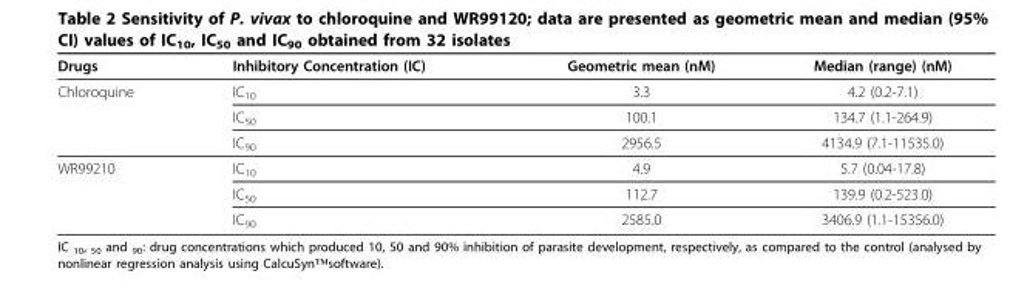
<table><thead><tr><td>Drugs</td><td>Inhibitory Concentration (IC)</td><td>Geometric mean (nM)</td><td>Median (range) (nM)</td></tr></thead><tbody><tr><td rowspan="3">Chloroquine</td><td>IC<sub>10</sub></td><td>3.3</td><td>4.2 (0.2-7.1)</td></tr><tr><td>IC<sub>50</sub></td><td>100.1</td><td>134.7 (1.1-264.9)</td></tr><tr><td>IC<sub>90</sub></td><td>2956.5</td><td>4134.9 (7.1-11535.0)</td></tr><tr><td rowspan="3">WR99210</td><td>IC<sub>10</sub></td><td>4.9</td><td>5.7 (0.04-17.8)</td></tr><tr><td>IC<sub>50</sub></td><td>112.7</td><td>139.9 (0.2-523.0)</td></tr><tr><td>IC<sub>90</sub></td><td>2585.0</td><td>3406.9 (1.1-15356.0)</td></tr></tbody></table>